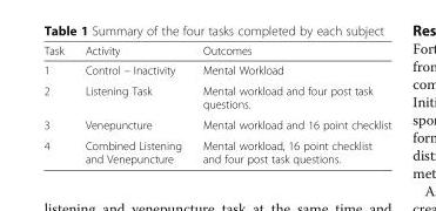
<table><thead><tr><td>Task</td><td>Activity</td><td>Outcomes</td></tr></thead><tbody><tr><td>1</td><td>Control – Inactivity</td><td>Mental Workload</td></tr><tr><td>2</td><td>Listening Task</td><td>Mental workload and four post task questions.</td></tr><tr><td>3</td><td>Venepuncture</td><td>Mental workload and 16 point checklist</td></tr><tr><td>4</td><td>Combined Listening and Venepuncture</td><td>Mental workload, 16 point checklist and four post task questions.</td></tr></tbody></table>